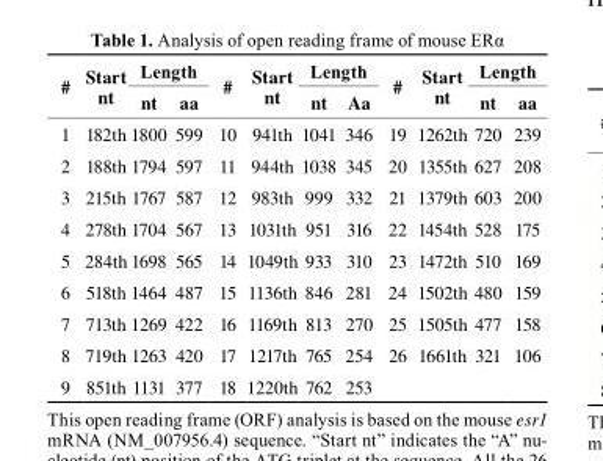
<table><thead><tr><td rowspan="2">#</td><td rowspan="2">start nt</td><td colspan="2">Length</td><td rowspan="2">#</td><td rowspan="2">start nt</td><td colspan="2">Length</td><td rowspan="2">#</td><td rowspan="2">start nt</td><td colspan="2">Length</td></tr><tr><td>nt</td><td>aa</td><td>nt</td><td>Aa</td><td>nt</td><td>aa</td></tr></thead><tbody><tr><td>1</td><td>182th</td><td>1800</td><td>599</td><td>10</td><td>941th</td><td>1041</td><td>346</td><td>19</td><td>1262th</td><td>720</td><td>239</td></tr><tr><td>2</td><td>188th</td><td>1794</td><td>597</td><td>11</td><td>944th</td><td>1038</td><td>345</td><td>20</td><td>1355th</td><td>627</td><td>208</td></tr><tr><td>3</td><td>215th</td><td>1767</td><td>587</td><td>12</td><td>983th</td><td>999</td><td>332</td><td>21</td><td>1379th</td><td>603</td><td>200</td></tr><tr><td>4</td><td>278th</td><td>1704</td><td>567</td><td>13</td><td>1031th</td><td>951</td><td>316</td><td>22</td><td>1454th</td><td>528</td><td>175</td></tr><tr><td>5</td><td>284th</td><td>1698</td><td>565</td><td>14</td><td>1049th</td><td>933</td><td>310</td><td>23</td><td>1472th</td><td>510</td><td>169</td></tr><tr><td>6</td><td>518th</td><td>1464</td><td>487</td><td>15</td><td>1136th</td><td>846</td><td>281</td><td>24</td><td>1502th</td><td>480</td><td>159</td></tr><tr><td>7</td><td>713th</td><td>1269</td><td>422</td><td>16</td><td>1169th</td><td>813</td><td>270</td><td>25</td><td>1505th</td><td>477</td><td>158</td></tr><tr><td>8</td><td>719th</td><td>1263</td><td>420</td><td>17</td><td>1217th</td><td>765</td><td>254</td><td>26</td><td>1661th</td><td>321</td><td>106</td></tr><tr><td>9</td><td>851th</td><td>1131</td><td>377</td><td>18</td><td>1220th</td><td>762</td><td>253</td><td></td><td></td><td></td><td></td></tr></tbody></table>